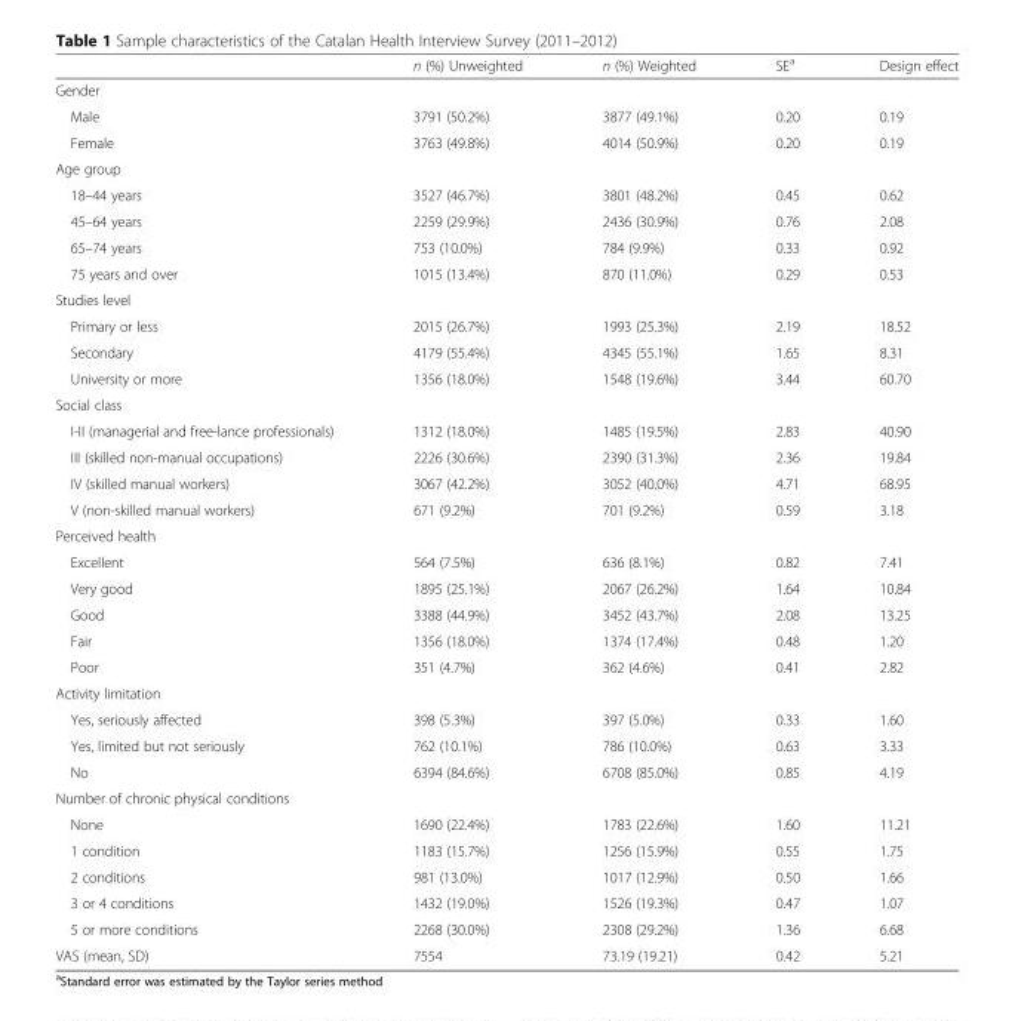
<table><thead><tr><td></td><td>n (%) Unweighted</td><td>n (%) Weighted</td><td>SE<sup>a</sup></td><td>Design effect</td></tr></thead><tbody><tr><td colspan="5">Gender</td></tr><tr><td>Male</td><td>3791 (50.2%)</td><td>3877 (49.1%)</td><td>0.20</td><td>0.19</td></tr><tr><td>Female</td><td>3763 (49.8%)</td><td>4014 (50.9%)</td><td>0.20</td><td>0.19</td></tr><tr><td colspan="5">Age group</td></tr><tr><td>18–44 years</td><td>3527 (46.7%)</td><td>3801 (48.2%)</td><td>0.45</td><td>0.62</td></tr><tr><td>45–64 years</td><td>2259 (29.9%)</td><td>2436 (30.9%)</td><td>0.76</td><td>2.08</td></tr><tr><td>65–74 years</td><td>753 (10.0%)</td><td>784 (9.9%)</td><td>0.33</td><td>0.92</td></tr><tr><td>75 years and over</td><td>1015 (13.4%)</td><td>870 (11.0%)</td><td>0.29</td><td>0.53</td></tr><tr><td colspan="5">Studies level</td></tr><tr><td>Primary or less</td><td>2015 (26.7%)</td><td>1993 (25.3%)</td><td>2.19</td><td>18.52</td></tr><tr><td>Secondary</td><td>4179 (55.4%)</td><td>4345 (55.1%)</td><td>1.65</td><td>8.31</td></tr><tr><td>University or more</td><td>1356 (18.0%)</td><td>1548 (19.6%)</td><td>3.44</td><td>60.70</td></tr><tr><td colspan="5">Social class</td></tr><tr><td>I-II (managerial and free-lance professionals)</td><td>1312 (18.0%)</td><td>1485 (19.5%)</td><td>2.83</td><td>40.90</td></tr><tr><td>III (skilled non-manual occupations)</td><td>2226 (30.6%)</td><td>2390 (31.3%)</td><td>2.36</td><td>19.84</td></tr><tr><td>IV (skilled manual workers)</td><td>3067 (42.2%)</td><td>3052 (40.0%)</td><td>4.71</td><td>68.95</td></tr><tr><td>V (non-skilled manual workers)</td><td>671 (9.2%)</td><td>701 (9.2%)</td><td>0.59</td><td>3.18</td></tr><tr><td colspan="5">Perceived health</td></tr><tr><td>Excellent</td><td>564 (7.5%)</td><td>636 (8.1%)</td><td>0.82</td><td>7.41</td></tr><tr><td>Very good</td><td>1895 (25.1%)</td><td>2067 (26.2%)</td><td>1.64</td><td>10.84</td></tr><tr><td>Good</td><td>3388 (44.9%)</td><td>3452 (43.7%)</td><td>2.08</td><td>13.25</td></tr><tr><td>Fair</td><td>1356 (18.0%)</td><td>1374 (17.4%)</td><td>0.48</td><td>1.20</td></tr><tr><td>Poor</td><td>351 (4.7%)</td><td>362 (4.6%)</td><td>0.41</td><td>2.82</td></tr><tr><td colspan="5">Activity limitation</td></tr><tr><td>Yes, seriously affected</td><td>398 (5.3%)</td><td>397 (5.0%)</td><td>0.33</td><td>1.60</td></tr><tr><td>Yes, limited but not seriously</td><td>762 (10.1%)</td><td>786 (10.0%)</td><td>0.63</td><td>3.33</td></tr><tr><td>No</td><td>6394 (84.6%)</td><td>6708 (85.0%)</td><td>0.85</td><td>4.19</td></tr><tr><td colspan="5">Number of chronic physical conditions</td></tr><tr><td>None</td><td>1690 (22.4%)</td><td>1783 (22.6%)</td><td>1.60</td><td>11.21</td></tr><tr><td>1 condition</td><td>1183 (15.7%)</td><td>1256 (15.9%)</td><td>0.55</td><td>1.75</td></tr><tr><td>2 conditions</td><td>981 (13.0%)</td><td>1017 (12.9%)</td><td>0.50</td><td>1.66</td></tr><tr><td>3 or 4 conditions</td><td>1432 (19.0%)</td><td>1526 (19.3%)</td><td>0.47</td><td>1.07</td></tr><tr><td>5 or more conditions</td><td>2268 (30.0%)</td><td>2308 (29.2%)</td><td>1.36</td><td>6.68</td></tr><tr><td>VAS (mean, SD)</td><td>7554</td><td>73.19 (19.21)</td><td>0.42</td><td>5.21</td></tr></tbody></table>